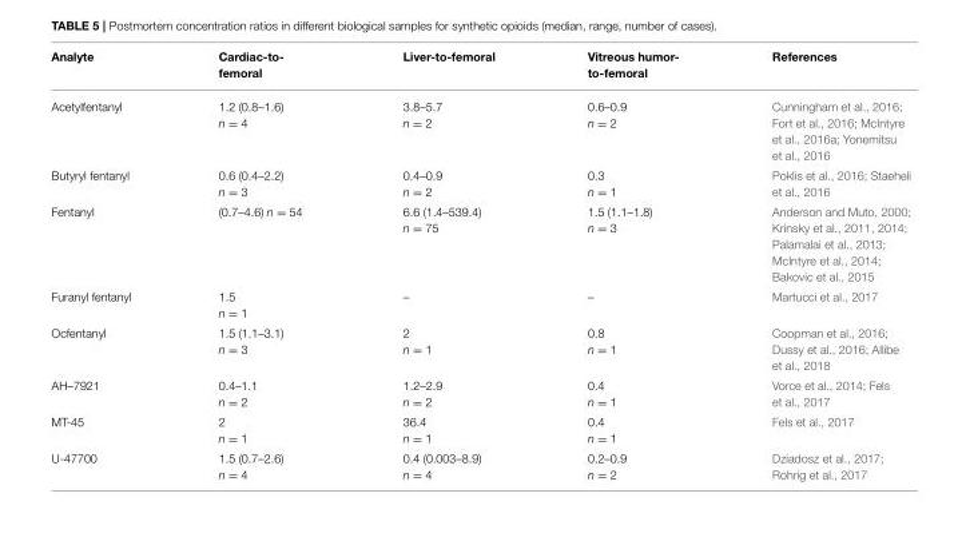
<table><thead><tr><td>Analyte</td><td>Cardiac-to- femoral</td><td>Liver-to-femoral</td><td>Vitreous humor- to-femoral</td><td>References</td></tr></thead><tbody><tr><td>Acetylfentanyl</td><td>1.2 (0.8–1.6) n = 4</td><td>3.8–5.7 n = 2</td><td>0.6–0.9 n = 2</td><td>Cunningham et al., 2016; Fort et al., 2016; McIntyre et al., 2016a; Yonemitsu et al., 2016</td></tr><tr><td>Butyryl fentanyl</td><td>0.6 (0.4–2.2) n = 3</td><td>0.4–0.9 n = 2</td><td>0.3 n = 1</td><td>Poklis et al., 2016; Staeheli et al., 2016</td></tr><tr><td>Fentanyl</td><td>(0.7–4.6) n = 54</td><td>6.6 (1.4–539.4) n = 75</td><td>1.5 (1.1–1.8) n = 3</td><td>Anderson and Muto, 2000; Krinsky et al., 2011, 2014; Palamalai et al., 2013; McIntyre et al., 2014; Bakovic et al., 2015</td></tr><tr><td>Furanyl fentanyl</td><td>1.5 n = 1</td><td>–</td><td>–</td><td>Martucci et al., 2017</td></tr><tr><td>Ocfentanyl</td><td>1.5 (1.1–3.1) n = 3</td><td>2 n = 1</td><td>0.8 n = 1</td><td>Coopman et al., 2016; Dussy et al., 2016; Allibe et al., 2018</td></tr><tr><td>AH–7921</td><td>0.4–1.1 n = 2</td><td>1.2–2.9 n = 2</td><td>0.4 n = 1</td><td>Vorce et al., 2014; Fels et al., 2017</td></tr><tr><td>MT-45</td><td>2 n = 1</td><td>36.4 n = 1</td><td>0.4 n = 1</td><td>Fels et al., 2017</td></tr><tr><td>U-47700</td><td>1.5 (0.7–2.6) n = 4</td><td>0.4 (0.003–8.9) n = 4</td><td>0.2–0.9 n = 2</td><td>Dziadosz et al., 2017; Rohrig et al., 2017</td></tr></tbody></table>